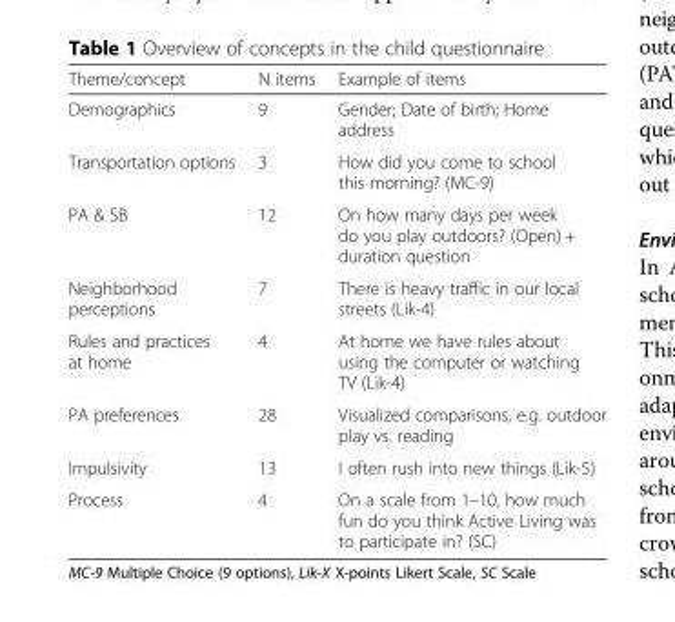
<table><thead><tr><td>Theme/concept</td><td>N items</td><td>Example of items</td></tr></thead><tbody><tr><td>Demographics</td><td>9</td><td>Gender; Date of birth; Home address</td></tr><tr><td>Transportation options</td><td>3</td><td>How did you come to school this morning? (MC-9)</td></tr><tr><td>PA &amp; SB</td><td>12</td><td>On how many days per week do you play outdoors? (Open) + duration question</td></tr><tr><td>Neighborhood perceptions</td><td>7</td><td>There is heavy traffic in our local streets (Lik-4)</td></tr><tr><td>Rules and practices at home</td><td>4</td><td>At home we have rules about using the computer or watching TV (Lik-4)</td></tr><tr><td>PA preferences</td><td>28</td><td>Visualized comparisons, e.g. outdoor play vs. reading</td></tr><tr><td>Impulsivity</td><td>13</td><td>I often rush into new things (Lik-5)</td></tr><tr><td>Process</td><td>4</td><td>On a scale from 1–10, how much fun do you think Active Living was to participate in? (SC)</td></tr></tbody></table>